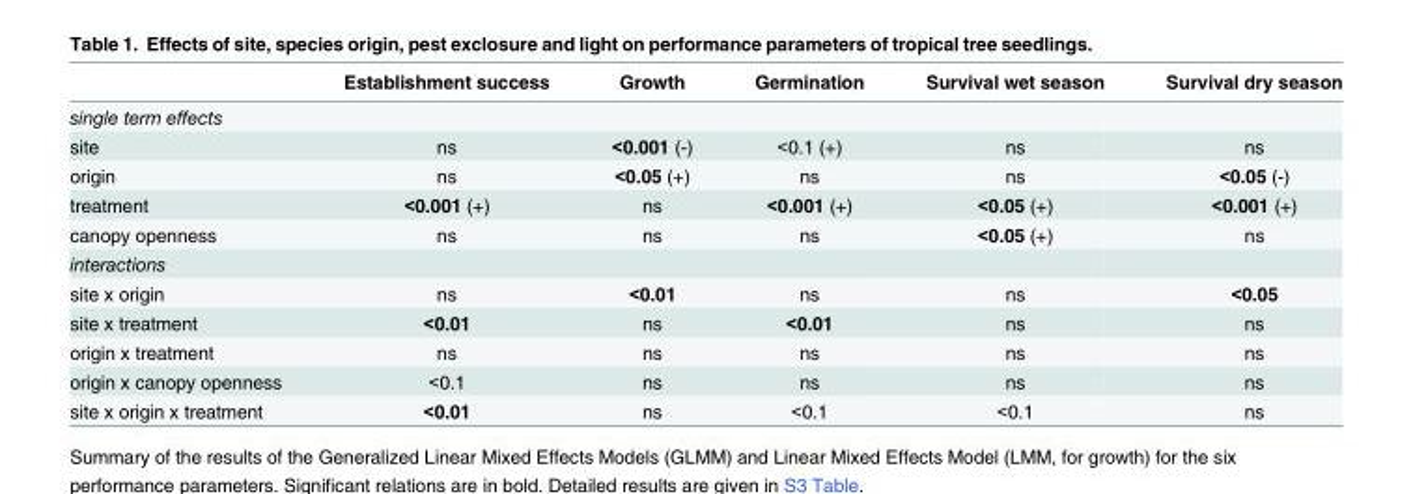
<table><thead><tr><td></td><td>Establishment success</td><td>Growth</td><td>Germination</td><td>Survival wet season</td><td>Survival dry season</td></tr></thead><tbody><tr><td colspan="6">single term effects</td></tr><tr><td>site</td><td>ns</td><td>&lt;0.001 (-)</td><td>&lt;0.1 (+)</td><td>ns</td><td>ns</td></tr><tr><td>origin</td><td>ns</td><td>&lt;0.05 (+)</td><td>ns</td><td>ns</td><td>&lt;0.05 (-)</td></tr><tr><td>treatment</td><td>&lt;0.001 (+)</td><td>ns</td><td>&lt;0.001 (+)</td><td>&lt;0.05 (+)</td><td>&lt;0.001 (+)</td></tr><tr><td>canopy openness</td><td>ns</td><td>ns</td><td>ns</td><td>&lt;0.05 (+)</td><td>ns</td></tr><tr><td colspan="6">interactions</td></tr><tr><td>site x origin</td><td>ns</td><td>&lt;0.01</td><td>ns</td><td>ns</td><td>&lt;0.05</td></tr><tr><td>site x treatment</td><td>&lt;0.01</td><td>ns</td><td>&lt;0.01</td><td>ns</td><td>ns</td></tr><tr><td>origin x treatment</td><td>ns</td><td>ns</td><td>ns</td><td>ns</td><td>ns</td></tr><tr><td>origin x canopy openness</td><td>&lt;0.1</td><td>ns</td><td>ns</td><td>ns</td><td>ns</td></tr><tr><td>site x origin x treatment</td><td>&lt;0.01</td><td>ns</td><td>&lt;0.1</td><td>&lt;0.1</td><td>ns</td></tr></tbody></table>